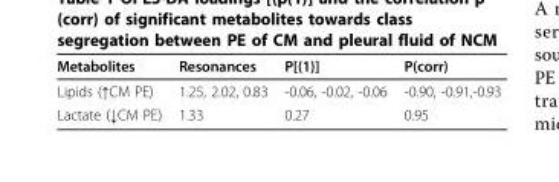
<table><thead><tr><td>Metabolites</td><td>Resonances</td><td>P[(1)]</td><td>P(corr)</td></tr></thead><tbody><tr><td>Lipids (↑CM PE)</td><td>1.25, 2.02, 0.83</td><td>-0.06, -0.02, -0.06</td><td>-0.90, -0.91,-0.93</td></tr><tr><td>Lactate (↓CM PE)</td><td>1.33</td><td>0.27</td><td>0.95</td></tr></tbody></table>